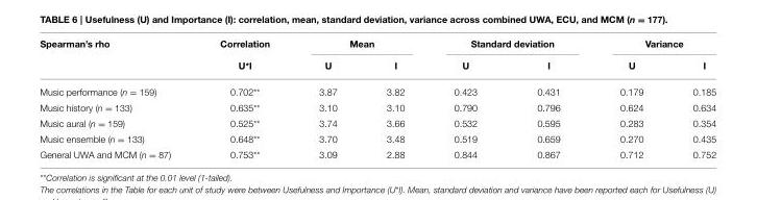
<table><thead><tr><td rowspan="2">Spearman’s rho</td><td rowspan="2">Correlation U*I</td><td colspan="2">Mean</td><td colspan="2">Standard deviation</td><td colspan="2">Variance</td></tr><tr><td>U</td><td>I</td><td>U</td><td>I</td><td>U</td><td>I</td></tr></thead><tbody><tr><td>Music performance (n = 159)</td><td>0.702**</td><td>3.87</td><td>3.82</td><td>0.423</td><td>0.431</td><td>0.179</td><td>0.185</td></tr><tr><td>Music history (n = 133)</td><td>0.635**</td><td>3.10</td><td>3.10</td><td>0.790</td><td>0.796</td><td>0.624</td><td>0.634</td></tr><tr><td>Music aural (n = 159)</td><td>0.525**</td><td>3.74</td><td>3.66</td><td>0.532</td><td>0.595</td><td>0.283</td><td>0.354</td></tr><tr><td>Music ensemble (n = 133)</td><td>0.648**</td><td>3.70</td><td>3.48</td><td>0.519</td><td>0.659</td><td>0.270</td><td>0.435</td></tr><tr><td>General UWA and MCM (n = 87)</td><td>0.753**</td><td>3.09</td><td>2.88</td><td>0.844</td><td>0.867</td><td>0.712</td><td>0.752</td></tr></tbody></table>